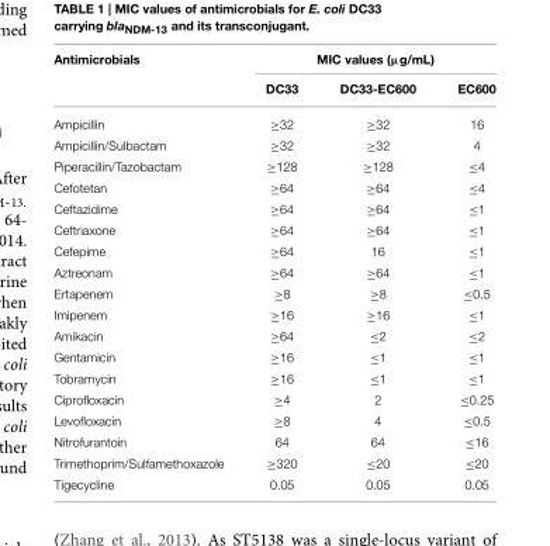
<table><thead><tr><td rowspan="2">Antimicrobials</td><td colspan="3">MIC values (µg/mL)</td></tr><tr><td>DC33</td><td>DC33-EC600</td><td>EC600</td></tr></thead><tbody><tr><td>Ampicillin</td><td>≥32</td><td>≥32</td><td>16</td></tr><tr><td>Ampicillin/Sulbactam</td><td>≥32</td><td>≥32</td><td>4</td></tr><tr><td>Piperacillin/Tazobactam</td><td>≥128</td><td>≥128</td><td>≤4</td></tr><tr><td>Cefotetan</td><td>≥64</td><td>≥64</td><td>≤4</td></tr><tr><td>Ceftazidime</td><td>≥64</td><td>≥64</td><td>≤1</td></tr><tr><td>Ceftriaxone</td><td>≥64</td><td>≥64</td><td>≤1</td></tr><tr><td>Cefepime</td><td>≥64</td><td>16</td><td>≤1</td></tr><tr><td>Aztreonam</td><td>≥64</td><td>≥64</td><td>≤1</td></tr><tr><td>Ertapenem</td><td>≥8</td><td>≥8</td><td>≤0.5</td></tr><tr><td>Imipenem</td><td>≥16</td><td>≥16</td><td>≤1</td></tr><tr><td>Amikacin</td><td>≥64</td><td>≤2</td><td>≤2</td></tr><tr><td>Gentamicin</td><td>≥16</td><td>≤1</td><td>≤1</td></tr><tr><td>Tobramycin</td><td>≥16</td><td>≤1</td><td>≤1</td></tr><tr><td>Ciprofloxacin</td><td>≥4</td><td>2</td><td>≤0.25</td></tr><tr><td>Levofloxacin</td><td>≥8</td><td>4</td><td>≤0.5</td></tr><tr><td>Nitrofurantoin</td><td>64</td><td>64</td><td>≤16</td></tr><tr><td>Trimethoprim/Sulfamethoxazole</td><td>≥320</td><td>≤20</td><td>≤20</td></tr><tr><td>Tigecycline</td><td>0.05</td><td>0.05</td><td>0.05</td></tr></tbody></table>